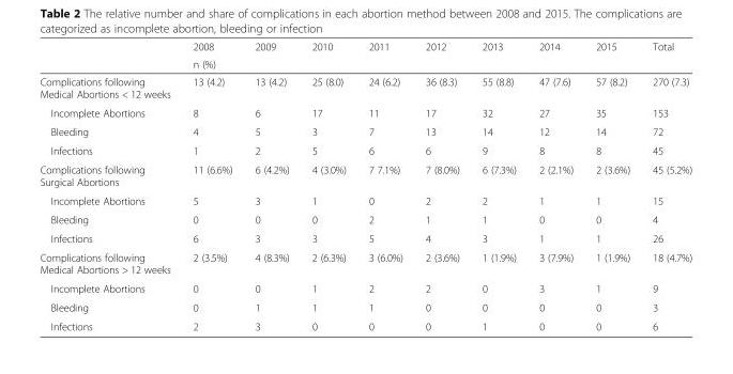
<table><thead><tr><td rowspan="2"></td><td>2008</td><td>2009</td><td>2010</td><td>2011</td><td>2012</td><td>2013</td><td>2014</td><td>2015</td><td>Total</td></tr><tr><td colspan="9">n (%)</td></tr></thead><tbody><tr><td>Complications following Medical Abortions &lt; 12 weeks</td><td>13 (4.2)</td><td>13 (4.2)</td><td>25 (8.0)</td><td>24 (6.2)</td><td>36 (8.3)</td><td>55 (8.8)</td><td>47 (7.6)</td><td>57 (8.2)</td><td>270 (7.3)</td></tr><tr><td>Incomplete Abortions</td><td>8</td><td>6</td><td>17</td><td>11</td><td>17</td><td>32</td><td>27</td><td>35</td><td>153</td></tr><tr><td>Bleeding</td><td>4</td><td>5</td><td>3</td><td>7</td><td>13</td><td>14</td><td>12</td><td>14</td><td>72</td></tr><tr><td>Infections</td><td>1</td><td>2</td><td>5</td><td>6</td><td>6</td><td>9</td><td>8</td><td>8</td><td>45</td></tr><tr><td>Complications following Surgical Abortions</td><td>11 (6.6%)</td><td>6 (4.2%)</td><td>4 (3.0%)</td><td>7 7.1%)</td><td>7 (8.0%)</td><td>6 (7.3%)</td><td>2 (2.1%)</td><td>2 (3.6%)</td><td>45 (5.2%)</td></tr><tr><td>Incomplete Abortions</td><td>5</td><td>3</td><td>1</td><td>0</td><td>2</td><td>2</td><td>1</td><td>1</td><td>15</td></tr><tr><td>Bleeding</td><td>0</td><td>0</td><td>0</td><td>2</td><td>1</td><td>1</td><td>0</td><td>0</td><td>4</td></tr><tr><td>Infections</td><td>6</td><td>3</td><td>3</td><td>5</td><td>4</td><td>3</td><td>1</td><td>1</td><td>26</td></tr><tr><td>Complications following Medical Abortions &gt; 12 weeks</td><td>2 (3.5%)</td><td>4 (8.3%)</td><td>2 (6.3%)</td><td>3 (6.0%)</td><td>2 (3.6%)</td><td>1 (1.9%)</td><td>3 (7.9%)</td><td>1 (1.9%)</td><td>18 (4.7%)</td></tr><tr><td>Incomplete Abortions</td><td>0</td><td>0</td><td>1</td><td>2</td><td>2</td><td>0</td><td>3</td><td>1</td><td>9</td></tr><tr><td>Bleeding</td><td>0</td><td>1</td><td>1</td><td>1</td><td>0</td><td>0</td><td>0</td><td>0</td><td>3</td></tr><tr><td>Infections</td><td>2</td><td>3</td><td>0</td><td>0</td><td>0</td><td>1</td><td>0</td><td>0</td><td>6</td></tr></tbody></table>